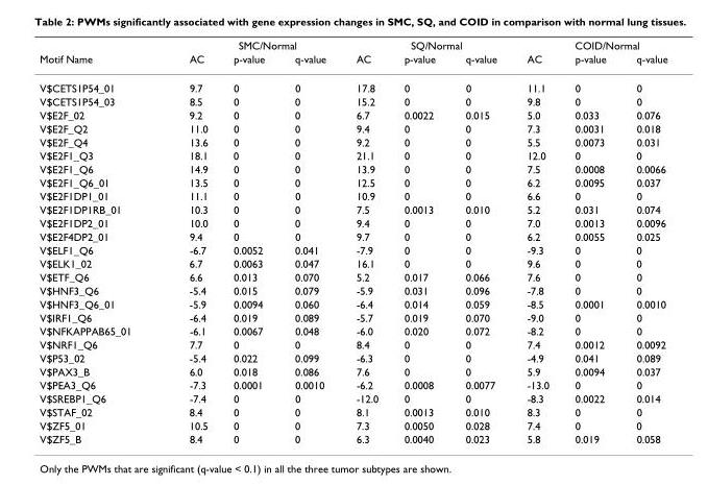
<table><thead><tr><td rowspan="2">Motif Name</td><td colspan="3">SMC/Normal</td><td colspan="3">SQ/Normal</td><td colspan="3">COID/Normal</td></tr><tr><td>AC</td><td>p-value</td><td>q-value</td><td>AC</td><td>p-value</td><td>q-value</td><td>AC</td><td>p-value</td><td>q-value</td></tr></thead><tbody><tr><td>V$CETS1P54_01</td><td>9.7</td><td>0</td><td>0</td><td>17.8</td><td>0</td><td>0</td><td>11.1</td><td>0</td><td>0</td></tr><tr><td>V$CETS1P54_03</td><td>8.5</td><td>0</td><td>0</td><td>15.2</td><td>0</td><td>0</td><td>9.8</td><td>0</td><td>0</td></tr><tr><td>V$E2F_02</td><td>9.2</td><td>0</td><td>0</td><td>6.7</td><td>0.0022</td><td>0.015</td><td>5.0</td><td>0.033</td><td>0.076</td></tr><tr><td>V$E2F_Q2</td><td>11.0</td><td>0</td><td>0</td><td>9.4</td><td>0</td><td>0</td><td>7.3</td><td>0.0031</td><td>0.018</td></tr><tr><td>V$E2F_Q4</td><td>13.6</td><td>0</td><td>0</td><td>9.2</td><td>0</td><td>0</td><td>5.5</td><td>0.0073</td><td>0.031</td></tr><tr><td>V$E2F1_Q3</td><td>18.1</td><td>0</td><td>0</td><td>21.1</td><td>0</td><td>0</td><td>12.0</td><td>0</td><td>0</td></tr><tr><td>V$E2F1_Q6</td><td>14.9</td><td>0</td><td>0</td><td>13.9</td><td>0</td><td>0</td><td>7.5</td><td>0.0008</td><td>0.0066</td></tr><tr><td>V$E2F1_Q6_01</td><td>13.5</td><td>0</td><td>0</td><td>12.5</td><td>0</td><td>0</td><td>6.2</td><td>0.0095</td><td>0.037</td></tr><tr><td>V$E2F1DP1_01</td><td>11.1</td><td>0</td><td>0</td><td>10.9</td><td>0</td><td>0</td><td>6.6</td><td>0</td><td>0</td></tr><tr><td>V$E2F1DP1RB_01</td><td>10.3</td><td>0</td><td>0</td><td>7.5</td><td>0.0013</td><td>0.010</td><td>5.2</td><td>0.031</td><td>0.074</td></tr><tr><td>V$E2F1DP2_01</td><td>10.0</td><td>0</td><td>0</td><td>9.4</td><td>0</td><td>0</td><td>7.0</td><td>0.0013</td><td>0.0096</td></tr><tr><td>V$E2F4DP2_01</td><td>9.4</td><td>0</td><td>0</td><td>9.7</td><td>0</td><td>0</td><td>6.2</td><td>0.0055</td><td>0.025</td></tr><tr><td>V$ELF1_Q6</td><td>-6.7</td><td>0.0052</td><td>0.041</td><td>-7.9</td><td>0</td><td>0</td><td>-9.3</td><td>0</td><td>0</td></tr><tr><td>V$ELK1_02</td><td>6.7</td><td>0.0063</td><td>0.047</td><td>16.1</td><td>0</td><td>0</td><td>9.6</td><td>0</td><td>0</td></tr><tr><td>V$ETF_Q6</td><td>6.6</td><td>0.013</td><td>0.070</td><td>5.2</td><td>0.017</td><td>0.066</td><td>7.6</td><td>0</td><td>0</td></tr><tr><td>V$HNF3_Q6</td><td>-5.4</td><td>0.015</td><td>0.079</td><td>-5.9</td><td>0.031</td><td>0.096</td><td>-7.8</td><td>0</td><td>0</td></tr><tr><td>V$HNF3_Q6_01</td><td>-5.9</td><td>0.0094</td><td>0.060</td><td>-6.4</td><td>0.014</td><td>0.059</td><td>-8.5</td><td>0.0001</td><td>0.0010</td></tr><tr><td>V$IRF1_Q6</td><td>-6.4</td><td>0.019</td><td>0.089</td><td>-5.7</td><td>0.019</td><td>0.070</td><td>-9.0</td><td>0</td><td>0</td></tr><tr><td>V$NFKAPPAB65_01</td><td>-6.1</td><td>0.0067</td><td>0.048</td><td>-6.0</td><td>0.020</td><td>0.072</td><td>-8.2</td><td>0</td><td>0</td></tr><tr><td>V$NRF1_Q6</td><td>7.7</td><td>0</td><td>0</td><td>8.4</td><td>0</td><td>0</td><td>7.4</td><td>0.0012</td><td>0.0092</td></tr><tr><td>V$P53_02</td><td>-5.4</td><td>0.022</td><td>0.099</td><td>-6.3</td><td>0</td><td>0</td><td>-4.9</td><td>0.041</td><td>0.089</td></tr><tr><td>V$PAX3_B</td><td>6.0</td><td>0.018</td><td>0.086</td><td>7.6</td><td>0</td><td>0</td><td>5.9</td><td>0.0094</td><td>0.037</td></tr><tr><td>V$PEA3_Q6</td><td>-7.3</td><td>0.0001</td><td>0.0010</td><td>-6.2</td><td>0.0008</td><td>0.0077</td><td>-13.0</td><td>0</td><td>0</td></tr><tr><td>V$SREBP1_Q6</td><td>-7.4</td><td>0</td><td>0</td><td>-12.0</td><td>0</td><td>0</td><td>-8.3</td><td>0.0022</td><td>0.014</td></tr><tr><td>V$STAF_02</td><td>8.4</td><td>0</td><td>0</td><td>8.1</td><td>0.0013</td><td>0.010</td><td>8.3</td><td>0</td><td>0</td></tr><tr><td>V$ZF5_01</td><td>10.5</td><td>0</td><td>0</td><td>7.3</td><td>0.0050</td><td>0.028</td><td>7.4</td><td>0</td><td>0</td></tr><tr><td>V$ZF5_B</td><td>8.4</td><td>0</td><td>0</td><td>6.3</td><td>0.0040</td><td>0.023</td><td>5.8</td><td>0.019</td><td>0.058</td></tr></tbody></table>